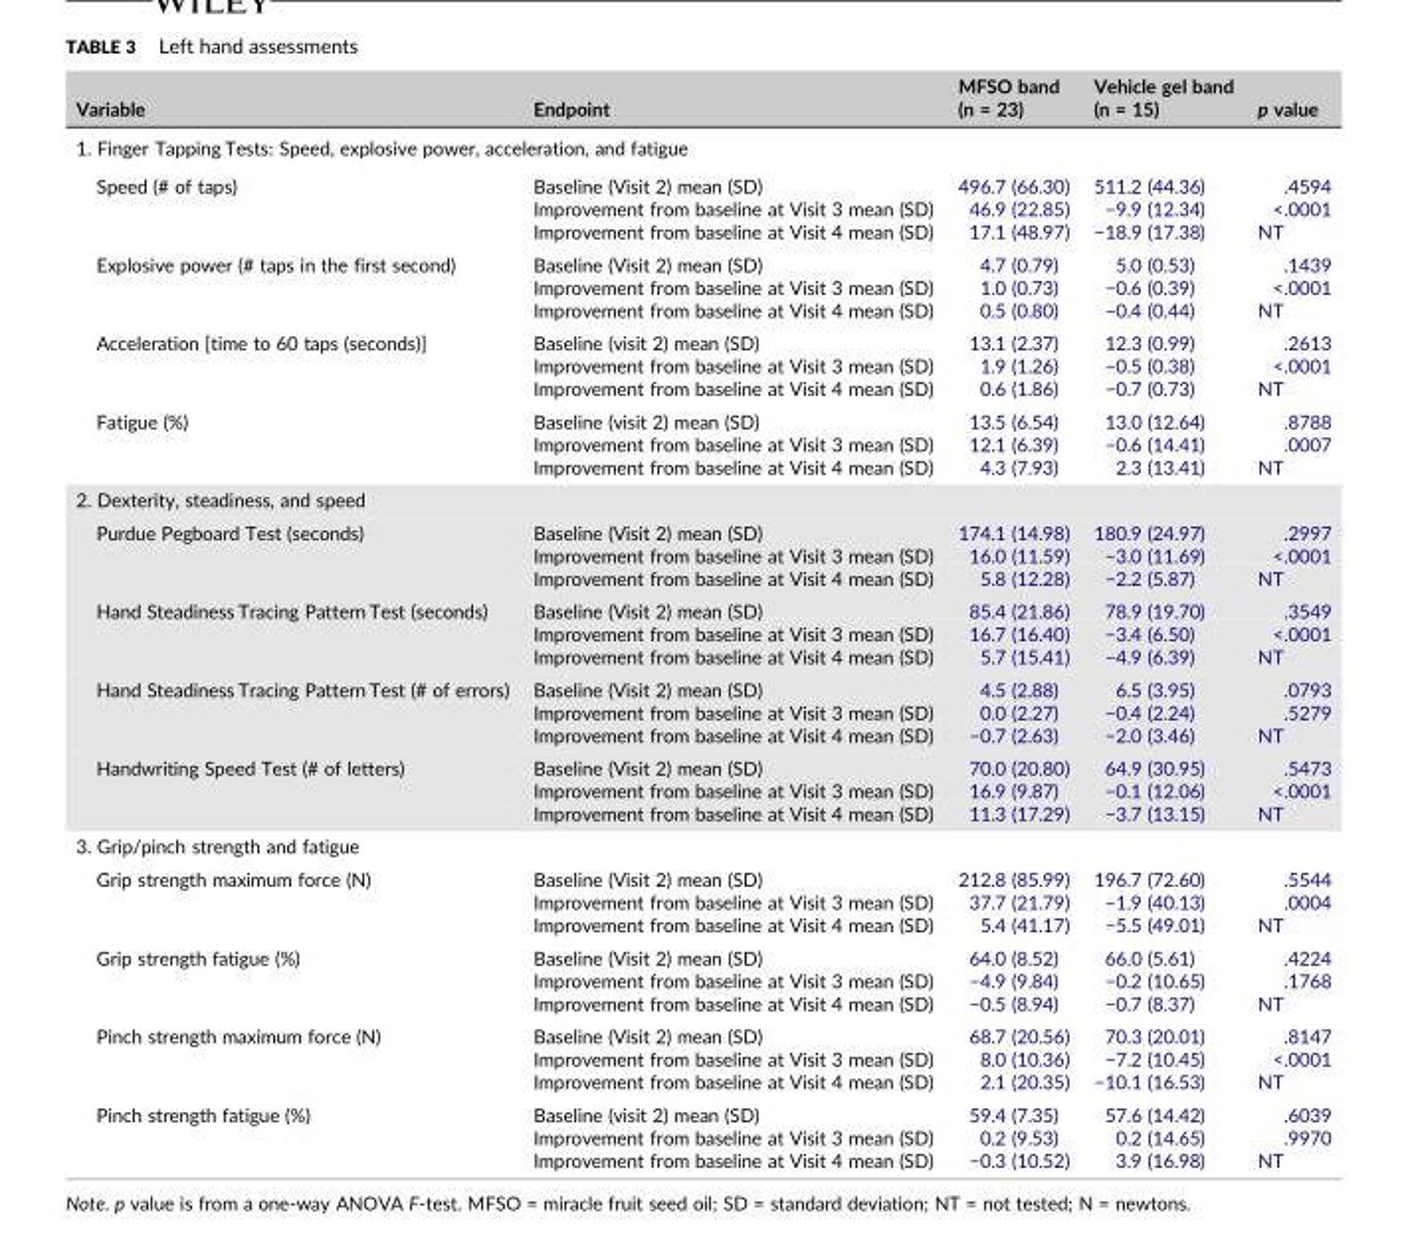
<table><thead><tr><td>Variable</td><td>Endpoint</td><td>MFSO band (n = 23)</td><td>Vehicle gel band (n = 15)</td><td>p value</td></tr></thead><tbody><tr><td colspan="5">1. Finger Tapping Tests: Speed, explosive power, acceleration, and fatigue</td></tr><tr><td rowspan="3">Speed (# of taps)</td><td>Baseline (Visit 2) mean (SD)</td><td>496.7 (66.30)</td><td>511.2 (44.36)</td><td>.4594</td></tr><tr><td>Improvement from baseline at Visit 3 mean (SD)</td><td>46.9 (22.85)</td><td>−9.9 (12.34)</td><td>&lt;.0001</td></tr><tr><td>Improvement from baseline at Visit 4 mean (SD)</td><td>17.1 (48.97)</td><td>−18.9 (17.38)</td><td>NT</td></tr><tr><td rowspan="3">Explosive power (# taps in the first second)</td><td>Baseline (Visit 2) mean (SD)</td><td>4.7 (0.79)</td><td>5.0 (0.53)</td><td>.1439</td></tr><tr><td>Improvement from baseline at Visit 3 mean (SD)</td><td>1.0 (0.73)</td><td>−0.6 (0.39)</td><td>&lt;.0001</td></tr><tr><td>Improvement from baseline at Visit 4 mean (SD)</td><td>0.5 (0.80)</td><td>−0.4 (0.44)</td><td>NT</td></tr><tr><td rowspan="3">Acceleration [time to 60 taps (seconds)]</td><td>Baseline (visit 2) mean (SD)</td><td>13.1 (2.37)</td><td>12.3 (0.99)</td><td>.2613</td></tr><tr><td>Improvement from baseline at Visit 3 mean (SD)</td><td>1.9 (1.26)</td><td>−0.5 (0.38)</td><td>&lt;.0001</td></tr><tr><td>Improvement from baseline at Visit 4 mean (SD)</td><td>0.6 (1.86)</td><td>−0.7 (0.73)</td><td>NT</td></tr><tr><td rowspan="3">Fatigue (%)</td><td>Baseline (visit 2) mean (SD)</td><td>13.5 (6.54)</td><td>13.0 (12.64)</td><td>.8788</td></tr><tr><td>Improvement from baseline at Visit 3 mean (SD)</td><td>12.1 (6.39)</td><td>−0.6 (14.41)</td><td>.0007</td></tr><tr><td>Improvement from baseline at Visit 4 mean (SD)</td><td>4.3 (7.93)</td><td>2.3 (13.41)</td><td>NT</td></tr><tr><td colspan="5">2. Dexterity, steadiness, and speed</td></tr><tr><td rowspan="3">Purdue Pegboard Test (seconds)</td><td>Baseline (Visit 2) mean (SD)</td><td>174.1 (14.98)</td><td>180.9 (24.97)</td><td>.2997</td></tr><tr><td>Improvement from baseline at Visit 3 mean (SD)</td><td>16.0 (11.59)</td><td>−3.0 (11.69)</td><td>&lt;.0001</td></tr><tr><td>Improvement from baseline at Visit 4 mean (SD)</td><td>5.8 (12.28)</td><td>−2.2 (5.87)</td><td>NT</td></tr><tr><td rowspan="3">Hand Steadiness Tracing Pattern Test (seconds)</td><td>Baseline (Visit 2) mean (SD)</td><td>85.4 (21.86)</td><td>78.9 (19.70)</td><td>.3549</td></tr><tr><td>Improvement from baseline at Visit 3 mean (SD)</td><td>16.7 (16.40)</td><td>−3.4 (6.50)</td><td>&lt;.0001</td></tr><tr><td>Improvement from baseline at Visit 4 mean (SD)</td><td>5.7 (15.41)</td><td>−4.9 (6.39)</td><td>NT</td></tr><tr><td rowspan="3">Hand Steadiness Tracing Pattern Test (# of errors)</td><td>Baseline (Visit 2) mean (SD)</td><td>4.5 (2.88)</td><td>6.5 (3.95)</td><td>.0793</td></tr><tr><td>Improvement from baseline at Visit 3 mean (SD)</td><td>0.0 (2.27)</td><td>−0.4 (2.24)</td><td>.5279</td></tr><tr><td>Improvement from baseline at Visit 4 mean (SD)</td><td>−0.7 (2.63)</td><td>−2.0 (3.46)</td><td>NT</td></tr><tr><td rowspan="3">Handwriting Speed Test (# of letters)</td><td>Baseline (Visit 2) mean (SD)</td><td>70.0 (20.80)</td><td>64.9 (30.95)</td><td>.5473</td></tr><tr><td>Improvement from baseline at Visit 3 mean (SD)</td><td>16.9 (9.87)</td><td>−0.1 (12.06)</td><td>&lt;.0001</td></tr><tr><td>Improvement from baseline at Visit 4 mean (SD)</td><td>11.3 (17.29)</td><td>−3.7 (13.15)</td><td>NT</td></tr><tr><td colspan="5">3. Grip/pinch strength and fatigue</td></tr><tr><td rowspan="3">Grip strength maximum force (N)</td><td>Baseline (Visit 2) mean (SD)</td><td>212.8 (85.99)</td><td>196.7 (72.60)</td><td>.5544</td></tr><tr><td>Improvement from baseline at Visit 3 mean (SD)</td><td>37.7 (21.79)</td><td>−1.9 (40.13)</td><td>.0004</td></tr><tr><td>Improvement from baseline at Visit 4 mean (SD)</td><td>5.4 (41.17)</td><td>−5.5 (49.01)</td><td>NT</td></tr><tr><td rowspan="3">Grip strength fatigue (%)</td><td>Baseline (Visit 2) mean (SD)</td><td>64.0 (8.52)</td><td>66.0 (5.61)</td><td>.4224</td></tr><tr><td>Improvement from baseline at Visit 3 mean (SD)</td><td>−4.9 (9.84)</td><td>−0.2 (10.65)</td><td>.1768</td></tr><tr><td>Improvement from baseline at Visit 4 mean (SD)</td><td>−0.5 (8.94)</td><td>−0.7 (8.37)</td><td>NT</td></tr><tr><td rowspan="3">Pinch strength maximum force (N)</td><td>Baseline (Visit 2) mean (SD)</td><td>68.7 (20.56)</td><td>70.3 (20.01)</td><td>.8147</td></tr><tr><td>Improvement from baseline at Visit 3 mean (SD)</td><td>8.0 (10.36)</td><td>−7.2 (10.45)</td><td>&lt;.0001</td></tr><tr><td>Improvement from baseline at Visit 4 mean (SD)</td><td>2.1 (20.35)</td><td>−10.1 (16.53)</td><td>NT</td></tr><tr><td rowspan="3">Pinch strength fatigue (%)</td><td>Baseline (visit 2) mean (SD)</td><td>59.4 (7.35)</td><td>57.6 (14.42)</td><td>.6039</td></tr><tr><td>Improvement from baseline at Visit 3 mean (SD)</td><td>0.2 (9.53)</td><td>0.2 (14.65)</td><td>.9970</td></tr><tr><td>Improvement from baseline at Visit 4 mean (SD)</td><td>−0.3 (10.52)</td><td>3.9 (16.98)</td><td>NT</td></tr></tbody></table>